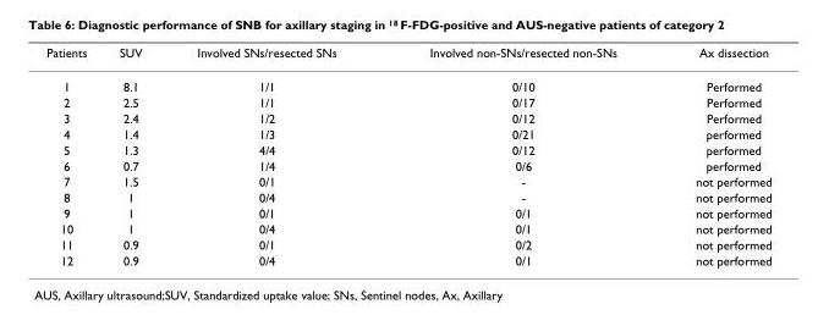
<table><thead><tr><td>Patients</td><td>SUV</td><td>Involved SNs/resected SNs</td><td>Involved non-SNs/resected non-SNs</td><td>Ax dissection</td></tr></thead><tbody><tr><td>1</td><td>8.1</td><td>1/1</td><td>0/10</td><td>Performed</td></tr><tr><td>2</td><td>2.5</td><td>1/1</td><td>0/17</td><td>Performed</td></tr><tr><td>3</td><td>2.4</td><td>1/2</td><td>0/12</td><td>Performed</td></tr><tr><td>4</td><td>1.4</td><td>1/3</td><td>0/21</td><td>performed</td></tr><tr><td>5</td><td>1.3</td><td>4/4</td><td>0/12</td><td>performed</td></tr><tr><td>6</td><td>0.7</td><td>1/4</td><td>0/6</td><td>performed</td></tr><tr><td>7</td><td>1.5</td><td>0/1</td><td>-</td><td>not performed</td></tr><tr><td>8</td><td>1</td><td>0/4</td><td>-</td><td>not performed</td></tr><tr><td>9</td><td>1</td><td>0/1</td><td>0/1</td><td>not performed</td></tr><tr><td>10</td><td>1</td><td>0/4</td><td>0/1</td><td>not performed</td></tr><tr><td>11</td><td>0.9</td><td>0/1</td><td>0/2</td><td>not performed</td></tr><tr><td>12</td><td>0.9</td><td>0/4</td><td>0/1</td><td>not performed</td></tr></tbody></table>